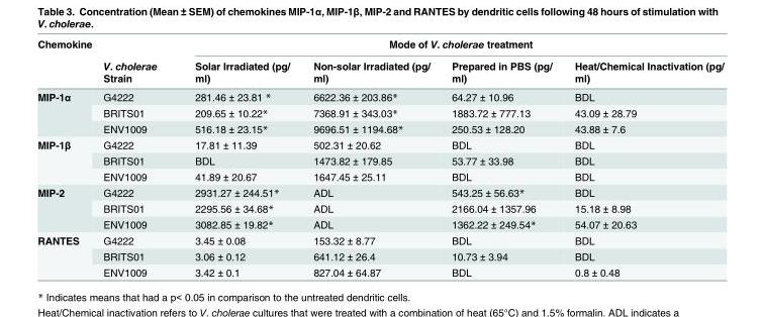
<table><thead><tr><td rowspan="2">Chemokine</td><td rowspan="2">V. cholerae Strain</td><td colspan="4">Mode of V. cholerae treatment</td></tr><tr><td>Solar Irradiated (pg/ ml)</td><td>Non-solar Irradiated (pg/ ml)</td><td>Prepared in PBS (pg/ ml)</td><td>Heat/Chemical Inactivation (pg/ ml)</td></tr></thead><tbody><tr><td rowspan="3">MIP-1α</td><td>G4222</td><td>281.46 ± 23.81 *</td><td>6622.36 ± 203.86*</td><td>64.27 ± 10.96</td><td>BDL</td></tr><tr><td>BRITS01</td><td>209.65 ± 10.22*</td><td>7368.91 ± 343.03*</td><td>1883.72 ± 777.13</td><td>43.09 ± 28.79</td></tr><tr><td>ENV1009</td><td>516.18 ± 23.15*</td><td>9696.51 ± 1194.68*</td><td>250.53 ± 128.20</td><td>43.88 ± 7.6</td></tr><tr><td rowspan="3">MIP-1β</td><td>G4222</td><td>17.81 ± 11.39</td><td>502.31 ± 20.62</td><td>BDL</td><td>BDL</td></tr><tr><td>BRITS01</td><td>BDL</td><td>1473.82 ± 179.85</td><td>53.77 ± 33.98</td><td>BDL</td></tr><tr><td>ENV1009</td><td>41.89 ± 20.67</td><td>1647.45 ± 25.11</td><td>BDL</td><td>BDL</td></tr><tr><td rowspan="3">MIP-2</td><td>G4222</td><td>2931.27 ± 244.51*</td><td>ADL</td><td>543.25 ± 56.63*</td><td>BDL</td></tr><tr><td>BRITS01</td><td>2295.56 ± 34.68*</td><td>ADL</td><td>2166.04 ± 1357.96</td><td>15.18 ± 8.98</td></tr><tr><td>ENV1009</td><td>3082.85 ± 19.82*</td><td>ADL</td><td>1362.22 ± 249.54*</td><td>54.07 ± 20.63</td></tr><tr><td rowspan="3">RANTES</td><td>G4222</td><td>3.45 ± 0.08</td><td>153.32 ± 8.77</td><td>BDL</td><td>BDL</td></tr><tr><td>BRITS01</td><td>3.06 ± 0.12</td><td>641.12 ± 26.4</td><td>10.73 ± 3.94</td><td>BDL</td></tr><tr><td>ENV1009</td><td>3.42 ± 0.1</td><td>827.04 ± 64.87</td><td>BDL</td><td>0.8 ± 0.48</td></tr></tbody></table>